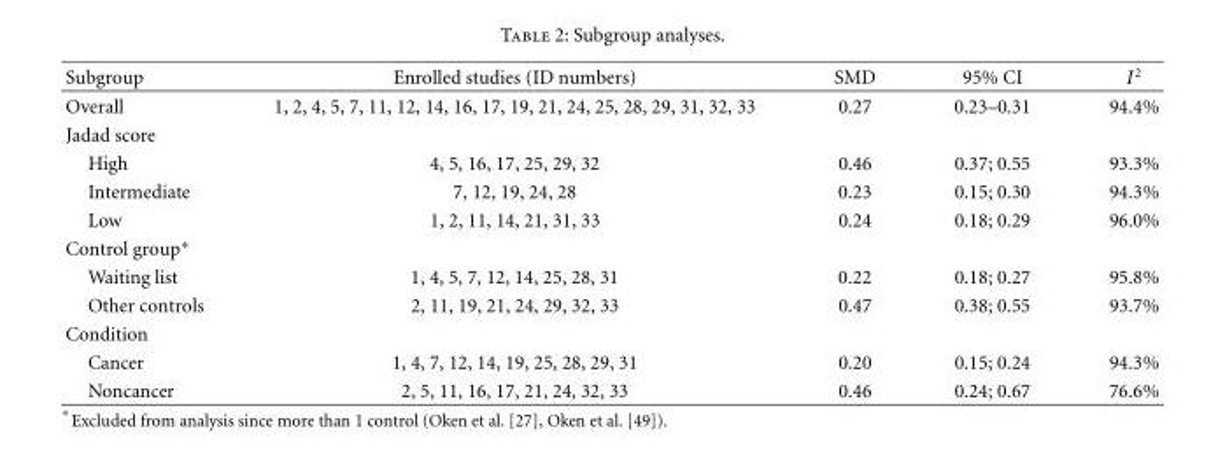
<table><thead><tr><td>Subgroup</td><td>Enrolled studies (ID numbers)</td><td>SMD</td><td>95% CI</td><td>I<sup>2</sup></td></tr></thead><tbody><tr><td>Overall</td><td>1, 2, 4, 5, 7, 11, 12, 14, 16, 17, 19, 21, 24, 25, 28, 29, 31, 32, 33</td><td>0.27</td><td>0.23–0.31</td><td>94.4%</td></tr><tr><td colspan="5">Jadad score</td></tr><tr><td>High</td><td>4, 5, 16, 17, 25, 29, 32</td><td>0.46</td><td>0.37; 0.55</td><td>93.3%</td></tr><tr><td>Intermediate</td><td>7, 12, 19, 24, 28</td><td>0.23</td><td>0.15; 0.30</td><td>94.3%</td></tr><tr><td>Low</td><td>1, 2, 11, 14, 21, 31, 33</td><td>0.24</td><td>0.18; 0.29</td><td>96.0%</td></tr><tr><td colspan="5">Control group∗</td></tr><tr><td>Waiting list</td><td>1, 4, 5, 7, 12, 14, 25, 28, 31</td><td>0.22</td><td>0.18; 0.27</td><td>95.8%</td></tr><tr><td>Other controls</td><td>2, 11, 19, 21, 24, 29, 32, 33</td><td>0.47</td><td>0.38; 0.55</td><td>93.7%</td></tr><tr><td colspan="5">Condition</td></tr><tr><td>Cancer</td><td>1, 4, 7, 12, 14, 19, 25, 28, 29, 31</td><td>0.20</td><td>0.15; 0.24</td><td>94.3%</td></tr><tr><td>Noncancer</td><td>2, 5, 11, 16, 17, 21, 24, 32, 33</td><td>0.46</td><td>0.24; 0.67</td><td>76.6%</td></tr></tbody></table>